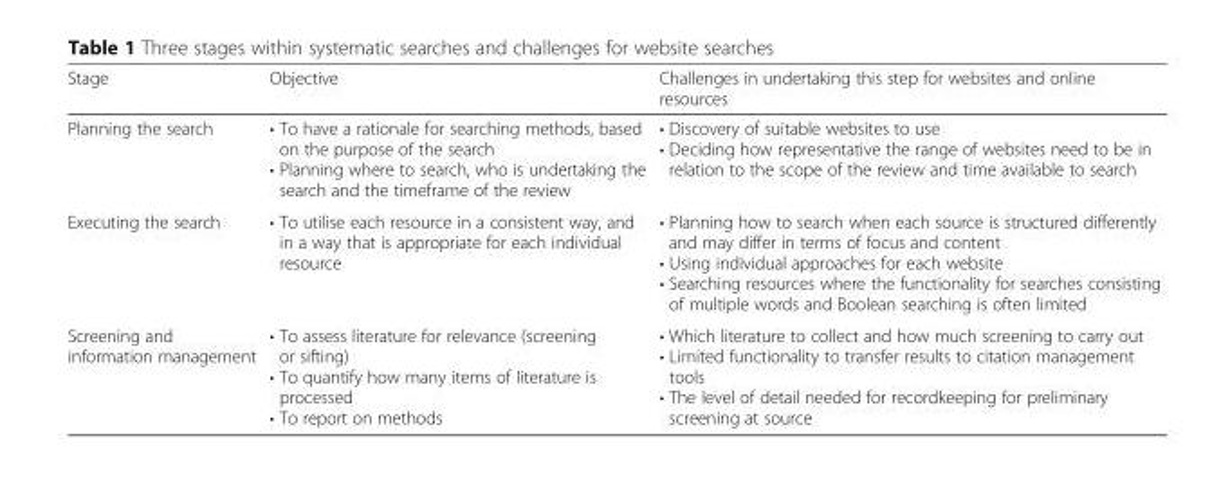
<table><thead><tr><td>Stage</td><td>Objective</td><td>Challenges in undertaking this step for websites and online resources</td></tr></thead><tbody><tr><td>Planning the search</td><td>• To have a rationale for searching methods, based on the purpose of the search • Planning where to search, who is undertaking the search and the timeframe of the review</td><td>• Discovery of suitable websites to use • Deciding how representative the range of websites need to be in relation to the scope of the review and time available to search</td></tr><tr><td>Executing the search</td><td>• To utilise each resource in a consistent way, and in a way that is appropriate for each individual resource</td><td>• Planning how to search when each source is structured differently and may differ in terms of focus and content • Using individual approaches for each website • Searching resources where the functionality for searches consisting of multiple words and Boolean searching is often limited</td></tr><tr><td>Screening and information management</td><td>• To assess literature for relevance (screening or sifting) • To quantify how many items of literature is processed • To report on methods</td><td>• Which literature to collect and how much screening to carry out • Limited functionality to transfer results to citation management tools • The level of detail needed for recordkeeping for preliminary screening at source</td></tr></tbody></table>